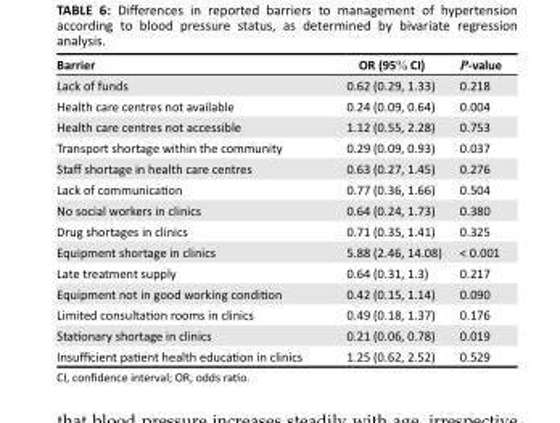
<table><thead><tr><td>Barrier</td><td>OR (95% CI)</td><td>P-value</td></tr></thead><tbody><tr><td>Lack of funds</td><td>0.62 (0.29, 1.33)</td><td>0.218</td></tr><tr><td>Health care centres not available</td><td>0.24 (0.09, 0.64)</td><td>0.004</td></tr><tr><td>Health care centres not accessible</td><td>1.12 (0.55, 2.28)</td><td>0.753</td></tr><tr><td>Transport shortage within the community</td><td>0.29 (0.09, 0.93)</td><td>0.037</td></tr><tr><td>Staff shortage in health care centres</td><td>0.63 (0.27, 1.45)</td><td>0.276</td></tr><tr><td>Lack of communication</td><td>0.77 (0.36, 1.66)</td><td>0.504</td></tr><tr><td>No social workers in clinics</td><td>0.64 (0.24, 1.73)</td><td>0.380</td></tr><tr><td>Drug shortages in clinics</td><td>0.71 (0.35, 1.41)</td><td>0.325</td></tr><tr><td>Equipment shortage in clinics</td><td>5.88 (2.46, 14.08)</td><td>&lt; 0.001</td></tr><tr><td>Late treatment supply</td><td>0.64 (0.31, 1.3)</td><td>0.217</td></tr><tr><td>Equipment not in good working condition</td><td>0.42 (0.15, 1.14)</td><td>0.090</td></tr><tr><td>Limited consultation rooms in clinics</td><td>0.49 (0.18, 1.37)</td><td>0.176</td></tr><tr><td>Stationary shortage in clinics</td><td>0.21 (0.06, 0.78)</td><td>0.019</td></tr><tr><td>Insufficient patient health education in clinics</td><td>1.25 (0.62, 2.52)</td><td>0.529</td></tr></tbody></table>